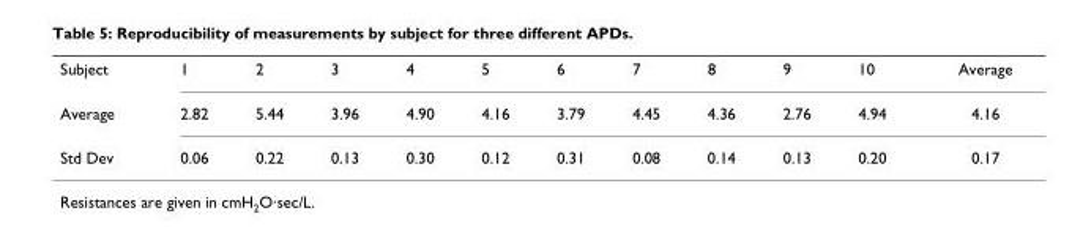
<table><tbody><tr><td>Subject</td><td>1</td><td>2</td><td>3</td><td>4</td><td>5</td><td>6</td><td>7</td><td>8</td><td>9</td><td>10</td><td>Average</td></tr><tr><td>Average</td><td>2.82</td><td>5.44</td><td>3.96</td><td>4.90</td><td>4.16</td><td>3.79</td><td>4.45</td><td>4.36</td><td>2.76</td><td>4.94</td><td>4.16</td></tr><tr><td>Std Dev</td><td>0.06</td><td>0.22</td><td>0.13</td><td>0.30</td><td>0.12</td><td>0.31</td><td>0.08</td><td>0.14</td><td>0.13</td><td>0.20</td><td>0.17</td></tr></tbody></table>